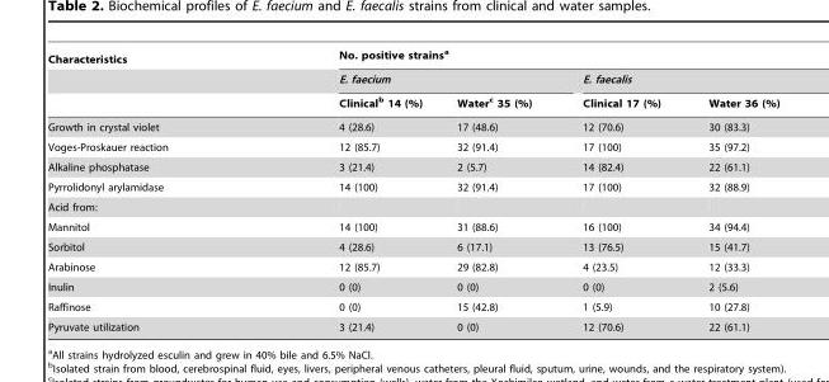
<table><thead><tr><td rowspan="3">Characteristics</td><td colspan="4">No. positive strains<sup>a</sup></td></tr><tr><td colspan="2">E. faecium</td><td colspan="2">E. faecalis</td></tr><tr><td>Clinical<sup>b</sup> 14 (%)</td><td>Water<sup>c</sup> 35 (%)</td><td>Clinical 17 (%)</td><td>Water 36 (%)</td></tr></thead><tbody><tr><td>Growth in crystal violet</td><td>4 (28.6)</td><td>17 (48.6)</td><td>12 (70.6)</td><td>30 (83.3)</td></tr><tr><td>Voges-Proskauer reaction</td><td>12 (85.7)</td><td>32 (91.4)</td><td>17 (100)</td><td>35 (97.2)</td></tr><tr><td>Alkaline phosphatase</td><td>3 (21.4)</td><td>2 (5.7)</td><td>14 (82.4)</td><td>22 (61.1)</td></tr><tr><td>Pyrrolidonyl arylamidase</td><td>14 (100)</td><td>32 (91.4)</td><td>17 (100)</td><td>32 (88.9)</td></tr><tr><td colspan="5">Acid from:</td></tr><tr><td>Mannitol</td><td>14 (100)</td><td>31 (88.6)</td><td>16 (100)</td><td>34 (94.4)</td></tr><tr><td>Sorbitol</td><td>4 (28.6)</td><td>6 (17.1)</td><td>13 (76.5)</td><td>15 (41.7)</td></tr><tr><td>Arabinose</td><td>12 (85.7)</td><td>29 (82.8)</td><td>4 (23.5)</td><td>12 (33.3)</td></tr><tr><td>Inulin</td><td>0 (0)</td><td>0 (0)</td><td>0 (0)</td><td>2 (5.6)</td></tr><tr><td>Raffinose</td><td>0 (0)</td><td>15 (42.8)</td><td>1 (5.9)</td><td>10 (27.8)</td></tr><tr><td>Pyruvate utilization</td><td>3 (21.4)</td><td>0 (0)</td><td>12 (70.6)</td><td>22 (61.1)</td></tr></tbody></table>